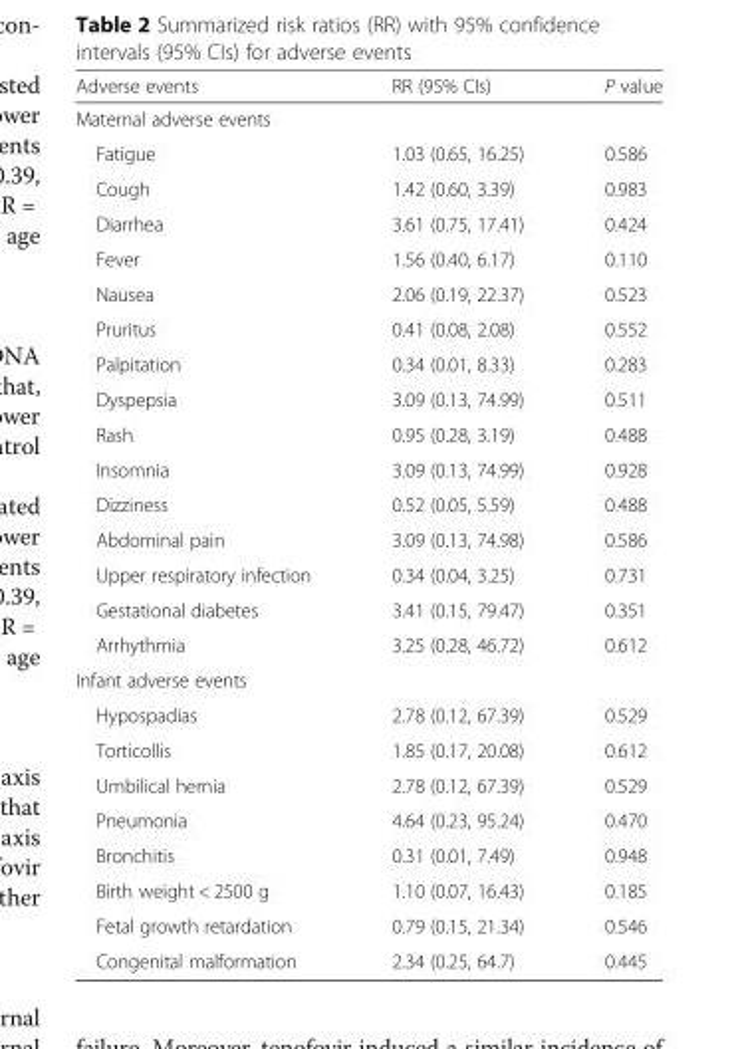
<table><thead><tr><td>Adverse events</td><td>RR (95% CIs)</td><td>P value</td></tr></thead><tbody><tr><td colspan="3">Maternal adverse events</td></tr><tr><td>Fatigue</td><td>1.03 (0.65, 16.25)</td><td>0.586</td></tr><tr><td>Cough</td><td>1.42 (0.60, 3.39)</td><td>0.983</td></tr><tr><td>Diarrhea</td><td>3.61 (0.75, 17.41)</td><td>0.424</td></tr><tr><td>Fever</td><td>1.56 (0.40, 6.17)</td><td>0.110</td></tr><tr><td>Nausea</td><td>2.06 (0.19, 22.37)</td><td>0.523</td></tr><tr><td>Pruritus</td><td>0.41 (0.08, 2.08)</td><td>0.552</td></tr><tr><td>Palpitation</td><td>0.34 (0.01, 8.33)</td><td>0.283</td></tr><tr><td>Dyspepsia</td><td>3.09 (0.13, 74.99)</td><td>0.511</td></tr><tr><td>Rash</td><td>0.95 (0.28, 3.19)</td><td>0.488</td></tr><tr><td>Insomnia</td><td>3.09 (0.13, 74.99)</td><td>0.928</td></tr><tr><td>Dizziness</td><td>0.52 (0.05, 5.59)</td><td>0.488</td></tr><tr><td>Abdominal pain</td><td>3.09 (0.13, 74.98)</td><td>0.586</td></tr><tr><td>Upper respiratory infection</td><td>0.34 (0.04, 3.25)</td><td>0.731</td></tr><tr><td>Gestational diabetes</td><td>3.41 (0.15, 79.47)</td><td>0.351</td></tr><tr><td>Arrhythmia</td><td>3.25 (0.28, 46.72)</td><td>0.612</td></tr><tr><td colspan="3">Infant adverse events</td></tr><tr><td>Hypospadias</td><td>2.78 (0.12, 67.39)</td><td>0.529</td></tr><tr><td>Torticollis</td><td>1.85 (0.17, 20.08)</td><td>0.612</td></tr><tr><td>Umbilical hernia</td><td>2.78 (0.12, 67.39)</td><td>0.529</td></tr><tr><td>Pneumonia</td><td>4.64 (0.23, 95.24)</td><td>0.470</td></tr><tr><td>Bronchitis</td><td>0.31 (0.01, 7.49)</td><td>0.948</td></tr><tr><td>Birth weight &lt; 2500 g</td><td>1.10 (0.07, 16.43)</td><td>0.185</td></tr><tr><td>Fetal growth retardation</td><td>0.79 (0.15, 21.34)</td><td>0.546</td></tr><tr><td>Congenital malformation</td><td>2.34 (0.25, 64.7)</td><td>0.445</td></tr></tbody></table>